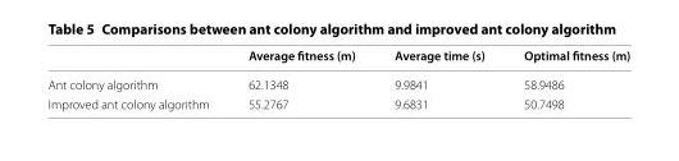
<table><thead><tr><td></td><td>Average fitness (m)</td><td>Average time (s)</td><td>Optimal fitness (m)</td></tr></thead><tbody><tr><td>Ant colony algorithm</td><td>62.1348</td><td>9.9841</td><td>58.9486</td></tr><tr><td>Improved ant colony algorithm</td><td>55.2767</td><td>9.6831</td><td>50.7498</td></tr></tbody></table>